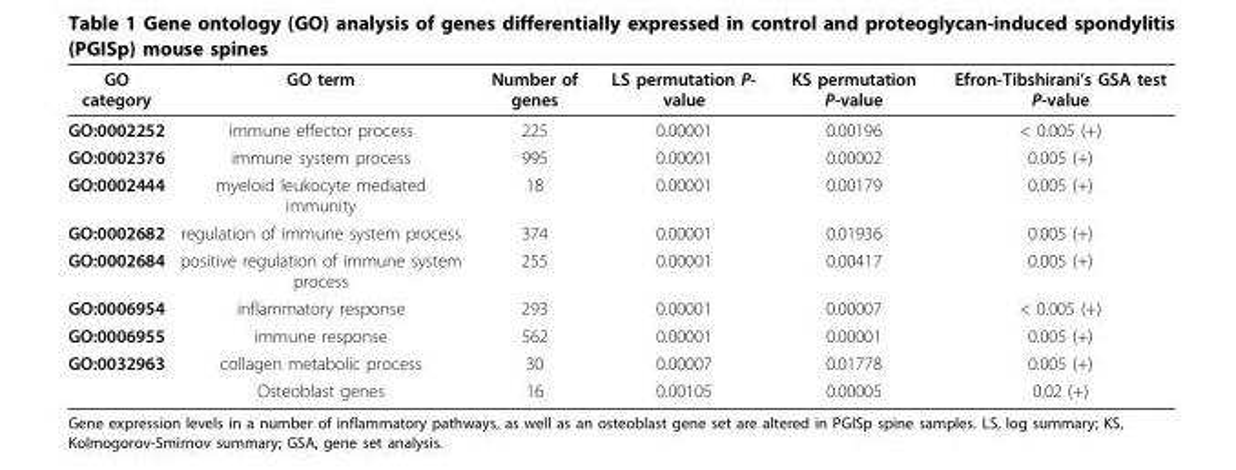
<table><thead><tr><td>GO category</td><td>GO term</td><td>Number of genes</td><td>LS permutation P- value</td><td>KS permutation P-value</td><td>Efron-Tibshirani’s GSA test P-value</td></tr></thead><tbody><tr><td>GO:0002252</td><td>immune effector process</td><td>225</td><td>0.00001</td><td>0.00196</td><td>&lt; 0.005 (+)</td></tr><tr><td>GO:0002376</td><td>immune system process</td><td>995</td><td>0.00001</td><td>0.00002</td><td>0.005 (+)</td></tr><tr><td>GO:0002444</td><td>myeloid leukocyte mediated immunity</td><td>18</td><td>0.00001</td><td>0.00179</td><td>0.005 (+)</td></tr><tr><td>GO:0002682</td><td>regulation of immune system process</td><td>374</td><td>0.00001</td><td>0.01936</td><td>0.005 (+)</td></tr><tr><td>GO:0002684</td><td>positive regulation of immune system process</td><td>255</td><td>0.00001</td><td>0.00417</td><td>0.005 (+)</td></tr><tr><td>GO:0006954</td><td>inflammatory response</td><td>293</td><td>0.00001</td><td>0.00007</td><td>&lt; 0.005 (+)</td></tr><tr><td>GO:0006955</td><td>immune response</td><td>562</td><td>0.00001</td><td>0.00001</td><td>0.005 (+)</td></tr><tr><td rowspan="2">GO:0032963</td><td>collagen metabolic process</td><td>30</td><td>0.00007</td><td>0.01778</td><td>0.005 (+)</td></tr><tr><td>Osteoblast genes</td><td>16</td><td>0.00105</td><td>0.00005</td><td>0.02 (+)</td></tr></tbody></table>